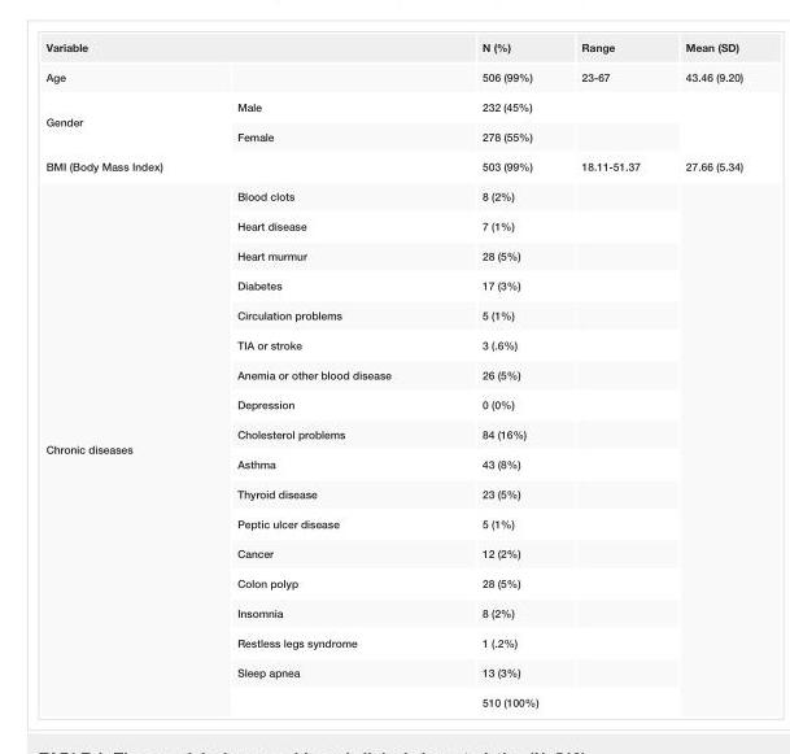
<table><tbody><tr><td colspan="2">Variable</td><td>N (%)</td><td>Range</td><td>Mean (SD)</td></tr><tr><td>Age</td><td></td><td>506 (99%)</td><td>23-67</td><td>43.46 (9.20)</td></tr><tr><td rowspan="2">Gender</td><td>Male</td><td>232 (45%)</td><td></td><td rowspan="2"></td></tr><tr><td>Female</td><td>278 (55%)</td><td></td></tr><tr><td>BMI (Body Mass Index)</td><td></td><td>503 (99%)</td><td>18.11-51.37</td><td>27.66 (5.34)</td></tr><tr><td rowspan="18">Chronic diseases</td><td>Blood clots</td><td>8 (2%)</td><td></td><td rowspan="18"></td></tr><tr><td>Heart disease</td><td>7 (1%)</td><td></td></tr><tr><td>Heart murmur</td><td>28 (5%)</td><td></td></tr><tr><td>Diabetes</td><td>17 (3%)</td><td></td></tr><tr><td>Circulation problems</td><td>5 (1%)</td><td></td></tr><tr><td>TIA or stroke</td><td>3 (.6%)</td><td></td></tr><tr><td>Anemia or other blood disease</td><td>26 (5%)</td><td></td></tr><tr><td>Depression</td><td>0 (0%)</td><td></td></tr><tr><td>Cholesterol problems</td><td>84 (16%)</td><td></td></tr><tr><td>Asthma</td><td>43 (8%)</td><td></td></tr><tr><td>Thyroid disease</td><td>23 (5%)</td><td></td></tr><tr><td>Peptic ulcer disease</td><td>5 (1%)</td><td></td></tr><tr><td>Cancer</td><td>12 (2%)</td><td></td></tr><tr><td>Colon polyp</td><td>28 (5%)</td><td></td></tr><tr><td>Insomnia</td><td>8 (2%)</td><td></td></tr><tr><td>Restless legs syndrome</td><td>1 (.2%)</td><td></td></tr><tr><td>Sleep apnea</td><td>13 (3%)</td><td></td></tr><tr><td></td><td>510 (100%)</td><td></td></tr></tbody></table>